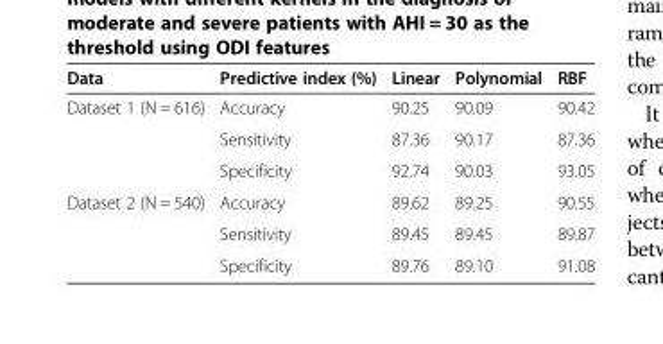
<table><thead><tr><td>Data</td><td>Predictive index (%)</td><td>Linear</td><td>Polynomial</td><td>RBF</td></tr></thead><tbody><tr><td rowspan="3">Dataset 1 (N = 616)</td><td>Accuracy</td><td>90.25</td><td>90.09</td><td>90.42</td></tr><tr><td>Sensitivity</td><td>87.36</td><td>90.17</td><td>87.36</td></tr><tr><td>Specificity</td><td>92.74</td><td>90.03</td><td>93.05</td></tr><tr><td rowspan="3">Dataset 2 (N = 540)</td><td>Accuracy</td><td>89.62</td><td>89.25</td><td>90.55</td></tr><tr><td>Sensitivity</td><td>89.45</td><td>89.45</td><td>89.87</td></tr><tr><td>Specificity</td><td>89.76</td><td>89.10</td><td>91.08</td></tr></tbody></table>